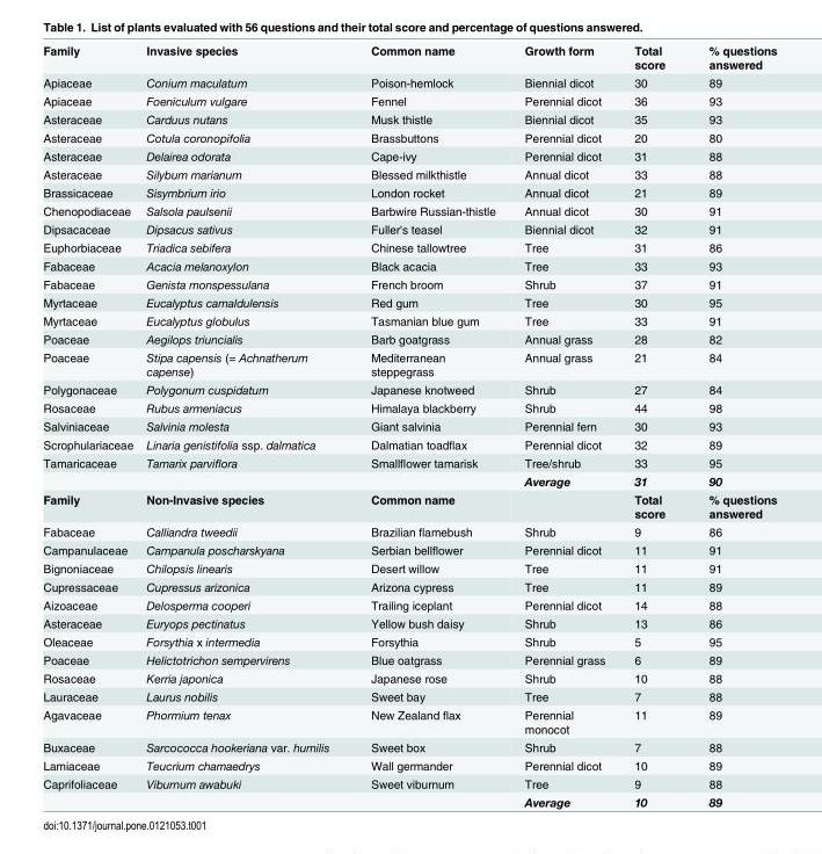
<table><tbody><tr><td>Family</td><td>Invasive species</td><td>Common name</td><td>Growth form</td><td>Total score</td><td>% questions answered</td></tr><tr><td>Apiaceae</td><td>Conium maculatum</td><td>Poison-hemlock</td><td>Biennial dicot</td><td>30</td><td>89</td></tr><tr><td>Apiaceae</td><td>Foeniculum vulgare</td><td>Fennel</td><td>Perennial dicot</td><td>36</td><td>93</td></tr><tr><td>Asteraceae</td><td>Carduus nutans</td><td>Musk thistle</td><td>Biennial dicot</td><td>35</td><td>93</td></tr><tr><td>Asteraceae</td><td>Cotula coronopifolia</td><td>Brassbuttons</td><td>Perennial dicot</td><td>20</td><td>80</td></tr><tr><td>Asteraceae</td><td>Delairea odorata</td><td>Cape-ivy</td><td>Perennial dicot</td><td>31</td><td>88</td></tr><tr><td>Asteraceae</td><td>Silybum marianum</td><td>Blessed milkthistle</td><td>Annual dicot</td><td>33</td><td>88</td></tr><tr><td>Brassicaceae</td><td>Sisymbrium irio</td><td>London rocket</td><td>Annual dicot</td><td>21</td><td>89</td></tr><tr><td>Chenopodiaceae</td><td>Salsola paulsenii</td><td>Barbwire Russian-thistle</td><td>Annual dicot</td><td>30</td><td>91</td></tr><tr><td>Dipsacaceae</td><td>Dipsacus sativus</td><td>Fuller&#x27;s teasel</td><td>Biennial dicot</td><td>32</td><td>91</td></tr><tr><td>Euphorbiaceae</td><td>Triadica sebifera</td><td>Chinese tallowtree</td><td>Tree</td><td>31</td><td>86</td></tr><tr><td>Fabaceae</td><td>Acacia melanoxylon</td><td>Black acacia</td><td>Tree</td><td>33</td><td>93</td></tr><tr><td>Fabaceae</td><td>Genista monspessulana</td><td>French broom</td><td>Shrub</td><td>37</td><td>91</td></tr><tr><td>Myrtaceae</td><td>Eucalyptus camaldulensis</td><td>Red gum</td><td>Tree</td><td>30</td><td>95</td></tr><tr><td>Myrtaceae</td><td>Eucalyptus globulus</td><td>Tasmanian blue gum</td><td>Tree</td><td>33</td><td>91</td></tr><tr><td>Poaceae</td><td>Aegilops triuncialis</td><td>Barb goatgrass</td><td>Annual grass</td><td>28</td><td>82</td></tr><tr><td>Poaceae</td><td>Stipa capensis (= Achnatherum capense)</td><td>Mediterranean steppegrass</td><td>Annual grass</td><td>21</td><td>84</td></tr><tr><td>Polygonaceae</td><td>Polygonum cuspidatum</td><td>Japanese knotweed</td><td>Shrub</td><td>27</td><td>84</td></tr><tr><td>Rosaceae</td><td>Rubus armeniacus</td><td>Himalaya blackberry</td><td>Shrub</td><td>44</td><td>98</td></tr><tr><td>Salviniaceae</td><td>Salvinia molesta</td><td>Giant salvinia</td><td>Perennial fern</td><td>30</td><td>93</td></tr><tr><td>Scrophulariaceae</td><td>Linaria genistifolia ssp. dalmatica</td><td>Dalmatian toadflax</td><td>Perennial dicot</td><td>32</td><td>89</td></tr><tr><td rowspan="2">Tamaricaceae</td><td>Tamarix parviflora</td><td>Smallflower tamarisk</td><td>Tree/shrub</td><td>33</td><td>95</td></tr><tr><td></td><td></td><td>Average</td><td>31</td><td>90</td></tr><tr><td>Family</td><td>Non-Invasive species</td><td>Common name</td><td></td><td>Total score</td><td>% questions answered</td></tr><tr><td>Fabaceae</td><td>Calliandra tweedii</td><td>Brazilian flamebush</td><td>Shrub</td><td>9</td><td>86</td></tr><tr><td>Campanulaceae</td><td>Campanula poscharskyana</td><td>Serbian bellflower</td><td>Perennial dicot</td><td>11</td><td>91</td></tr><tr><td>Bignoniaceae</td><td>Chilopsis linearis</td><td>Desert willow</td><td>Tree</td><td>11</td><td>91</td></tr><tr><td>Cupressaceae</td><td>Cupressus arizonica</td><td>Arizona cypress</td><td>Tree</td><td>11</td><td>89</td></tr><tr><td>Aizoaceae</td><td>Delosperma cooperi</td><td>Trailing iceplant</td><td>Perennial dicot</td><td>14</td><td>88</td></tr><tr><td>Asteraceae</td><td>Euryops pectinatus</td><td>Yellow bush daisy</td><td>Shrub</td><td>13</td><td>86</td></tr><tr><td>Oleaceae</td><td>Forsythia x intermedia</td><td>Forsythia</td><td>Shrub</td><td>5</td><td>95</td></tr><tr><td>Poaceae</td><td>Helictotrichon sempervirens</td><td>Blue oatgrass</td><td>Perennial grass</td><td>6</td><td>89</td></tr><tr><td>Rosaceae</td><td>Kerria japonica</td><td>Japanese rose</td><td>Shrub</td><td>10</td><td>88</td></tr><tr><td>Lauraceae</td><td>Laurus nobilis</td><td>Sweet bay</td><td>Tree</td><td>7</td><td>88</td></tr><tr><td>Agavaceae</td><td>Phormium tenax</td><td>New Zealand flax</td><td>Perennial monocot</td><td>11</td><td>89</td></tr><tr><td>Buxaceae</td><td>Sarcococca hookeriana var. humilis</td><td>Sweet box</td><td>Shrub</td><td>7</td><td>88</td></tr><tr><td>Lamiaceae</td><td>Teucrium chamaedrys</td><td>Wall germander</td><td>Perennial dicot</td><td>10</td><td>89</td></tr><tr><td rowspan="2">Caprifoliaceae</td><td>Viburnum awabuki</td><td>Sweet viburnum</td><td>Tree</td><td>9</td><td>88</td></tr><tr><td></td><td></td><td>Average</td><td>10</td><td>89</td></tr></tbody></table>